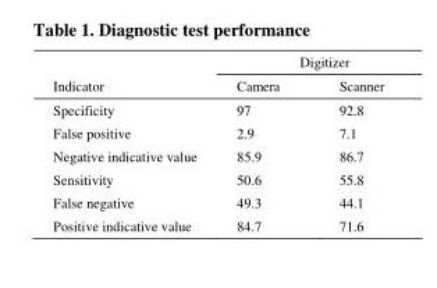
<table><thead><tr><td rowspan="2">Indicator</td><td colspan="2">Digitizer</td></tr><tr><td>Camera</td><td>Scanner</td></tr></thead><tbody><tr><td>Specificity</td><td>97</td><td>92.8</td></tr><tr><td>False positive</td><td>2.9</td><td>7.1</td></tr><tr><td>Negative indicative value</td><td>85.9</td><td>86.7</td></tr><tr><td>Sensitivity</td><td>50.6</td><td>55.8</td></tr><tr><td>False negative</td><td>49.3</td><td>44.1</td></tr><tr><td>Positive indicative value</td><td>84.7</td><td>71.6</td></tr></tbody></table>